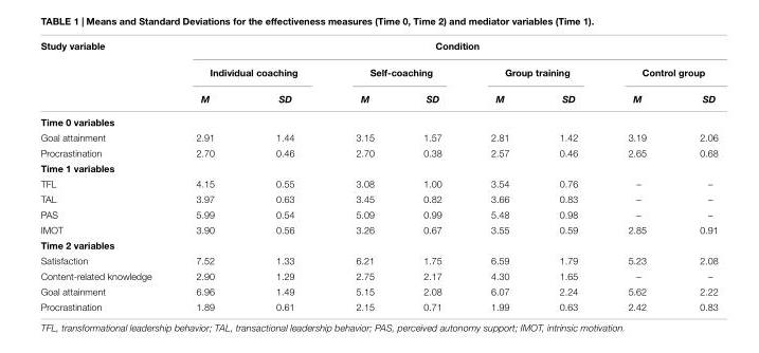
<table><thead><tr><td rowspan="3">Study variable</td><td colspan="8">Condition</td></tr><tr><td colspan="2">Individual coaching</td><td colspan="2">Self-coaching</td><td colspan="2">Group training</td><td colspan="2">Control group</td></tr><tr><td>M</td><td>SD</td><td>M</td><td>SD</td><td>M</td><td>SD</td><td>M</td><td>SD</td></tr></thead><tbody><tr><td colspan="9">Time 0 variables</td></tr><tr><td>Goal attainment</td><td>2.91</td><td>1.44</td><td>3.15</td><td>1.57</td><td>2.81</td><td>1.42</td><td>3.19</td><td>2.06</td></tr><tr><td>Procrastination</td><td>2.70</td><td>0.46</td><td>2.70</td><td>0.38</td><td>2.57</td><td>0.46</td><td>2.65</td><td>0.68</td></tr><tr><td colspan="9">Time 1 variables</td></tr><tr><td>TFL</td><td>4.15</td><td>0.55</td><td>3.08</td><td>1.00</td><td>3.54</td><td>0.76</td><td>–</td><td>–</td></tr><tr><td>TAL</td><td>3.97</td><td>0.63</td><td>3.45</td><td>0.82</td><td>3.66</td><td>0.83</td><td>–</td><td>–</td></tr><tr><td>PAS</td><td>5.99</td><td>0.54</td><td>5.09</td><td>0.99</td><td>5.48</td><td>0.98</td><td>–</td><td>–</td></tr><tr><td>IMOT</td><td>3.90</td><td>0.56</td><td>3.26</td><td>0.67</td><td>3.55</td><td>0.59</td><td>2.85</td><td>0.91</td></tr><tr><td colspan="9">Time 2 variables</td></tr><tr><td>Satisfaction</td><td>7.52</td><td>1.33</td><td>6.21</td><td>1.75</td><td>6.59</td><td>1.79</td><td>5.23</td><td>2.08</td></tr><tr><td>Content-related knowledge</td><td>2.90</td><td>1.29</td><td>2.75</td><td>2.17</td><td>4.30</td><td>1.65</td><td>–</td><td>–</td></tr><tr><td>Goal attainment</td><td>6.96</td><td>1.49</td><td>5.15</td><td>2.08</td><td>6.07</td><td>2.24</td><td>5.62</td><td>2.22</td></tr><tr><td>Procrastination</td><td>1.89</td><td>0.61</td><td>2.15</td><td>0.71</td><td>1.99</td><td>0.63</td><td>2.42</td><td>0.83</td></tr></tbody></table>